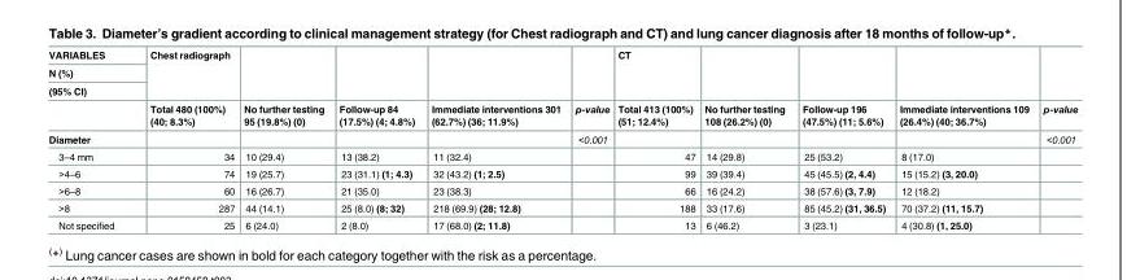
<table><thead><tr><td rowspan="4">VARIABLES N (%) (95% CI)</td><td rowspan="4">Chest radiograph Total 480 (100%) (40; 8.3%)</td><td rowspan="4">No further testing 95 (19.8%) (0)</td><td rowspan="4">Follow-up 84 (17.5%) (4; 4.8%)</td><td rowspan="4">Immediate interventions 301 (62.7%) (36; 11.9%)</td><td rowspan="4">p-value</td><td rowspan="4">CT Total 413 (100%) (51; 12.4%)</td><td rowspan="4">No further testing 108 (26.2%) (0)</td><td rowspan="4">Follow-up 196 (47.5%) (11; 5.6%)</td><td rowspan="4">Immediate interventions 109 (26.4%) (40; 36.7%)</td><td rowspan="4">p-value</td></tr><tr></tr><tr></tr><tr></tr></thead><tbody><tr><td>Diameter</td><td></td><td></td><td></td><td></td><td>&lt;0.001</td><td></td><td></td><td></td><td></td><td>&lt;0.001</td></tr><tr><td>3–4 mm</td><td>34</td><td>10 (29.4)</td><td>13 (38.2)</td><td>11 (32.4)</td><td></td><td>47</td><td>14 (29.8)</td><td>25 (53.2)</td><td>8 (17.0)</td><td></td></tr><tr><td>&gt;4–6</td><td>74</td><td>19 (25.7)</td><td>23 (31.1) (1; 4.3)</td><td>32 (43.2) (1; 2.5)</td><td></td><td>99</td><td>39 (39.4)</td><td>45 (45.5) (2, 4.4)</td><td>15 (15.2) (3, 20.0)</td><td></td></tr><tr><td>&gt;6–8</td><td>60</td><td>16 (26.7)</td><td>21 (35.0)</td><td>23 (38.3)</td><td></td><td>66</td><td>16 (24.2)</td><td>38 (57.6) (3, 7.9)</td><td>12 (18.2)</td><td></td></tr><tr><td>&gt;8</td><td>287</td><td>44 (14.1)</td><td>25 (8.0) (8; 32)</td><td>218 (69.9) (28; 12.8)</td><td></td><td>188</td><td>33 (17.6)</td><td>85 (45.2) (31, 36.5)</td><td>70 (37.2) (11, 15.7)</td><td></td></tr><tr><td>Not specified</td><td>25</td><td>6 (24.0)</td><td>2 (8.0)</td><td>17 (68.0) (2; 11.8)</td><td></td><td>13</td><td>6 (46.2)</td><td>3 (23.1)</td><td>4 (30.8) (1, 25.0)</td><td></td></tr></tbody></table>